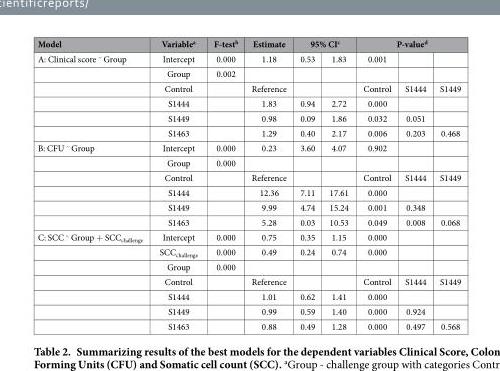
<table><thead><tr><td rowspan="2">Model A: Clinical score <sup>~</sup> Group</td><td rowspan="2">Variable<sup>a</sup> Intercept</td><td rowspan="2">F-test<sup>b</sup> 0.000</td><td rowspan="2">Estimate 1.18</td><td colspan="2">95% CI<sup>c</sup></td><td colspan="3">P-value<sup>d</sup></td></tr><tr><td>0.53</td><td>1.83</td><td>0.001</td><td></td><td></td></tr></thead><tbody><tr><td></td><td>Group</td><td>0.002</td><td></td><td></td><td></td><td></td><td></td><td></td></tr><tr><td></td><td>Control</td><td></td><td>Reference</td><td></td><td></td><td>Control</td><td>S1444</td><td>S1449</td></tr><tr><td></td><td>S1444</td><td></td><td>1.83</td><td>0.94</td><td>2.72</td><td>0.000</td><td></td><td></td></tr><tr><td></td><td>S1449</td><td></td><td>0.98</td><td>0.09</td><td>1.86</td><td>0.032</td><td>0.051</td><td></td></tr><tr><td></td><td>S1463</td><td></td><td>1.29</td><td>0.40</td><td>2.17</td><td>0.006</td><td>0.203</td><td>0.468</td></tr><tr><td rowspan="6">B: CFU <sup>~</sup> Group</td><td>Intercept</td><td>0.000</td><td>0.23</td><td>3.60</td><td>4.07</td><td>0.902</td><td></td><td></td></tr><tr><td>Group</td><td>0.000</td><td></td><td></td><td></td><td></td><td></td><td></td></tr><tr><td>Control</td><td></td><td>Reference</td><td></td><td></td><td>Control</td><td>S1444</td><td>S1449</td></tr><tr><td>S1444</td><td></td><td>12.36</td><td>7.11</td><td>17.61</td><td>0.000</td><td></td><td></td></tr><tr><td>S1449</td><td></td><td>9.99</td><td>4.74</td><td>15.24</td><td>0.001</td><td>0.348</td><td></td></tr><tr><td>S1463</td><td></td><td>5.28</td><td>0.03</td><td>10.53</td><td>0.049</td><td>0.008</td><td>0.068</td></tr><tr><td rowspan="7">C: SCC <sup>~</sup> Group + SCC<sub>challenge</sub></td><td>Intercept</td><td>0.000</td><td>0.75</td><td>0.35</td><td>1.15</td><td>0.000</td><td></td><td></td></tr><tr><td>SCC<sub>challenge</sub></td><td>0.000</td><td>0.49</td><td>0.24</td><td>0.74</td><td>0.000</td><td></td><td></td></tr><tr><td>Group</td><td>0.000</td><td></td><td></td><td></td><td></td><td></td><td></td></tr><tr><td>Control</td><td></td><td>Reference</td><td></td><td></td><td>Control</td><td>S1444</td><td>S1449</td></tr><tr><td>S1444</td><td></td><td>1.01</td><td>0.62</td><td>1.41</td><td>0.000</td><td></td><td></td></tr><tr><td>S1449</td><td></td><td>0.99</td><td>0.59</td><td>1.40</td><td>0.000</td><td>0.924</td><td></td></tr><tr><td>S1463</td><td></td><td>0.88</td><td>0.49</td><td>1.28</td><td>0.000</td><td>0.497</td><td>0.568</td></tr></tbody></table>